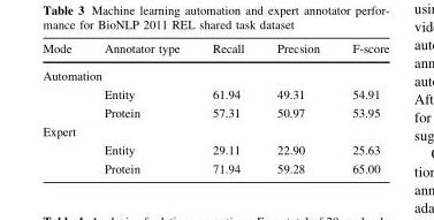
<table><thead><tr><td>Mode</td><td>Annotator type</td><td>Recall</td><td>Precsion</td><td>F-score</td></tr></thead><tbody><tr><td colspan="5">Automation</td></tr><tr><td></td><td>Entity</td><td>61.94</td><td>49.31</td><td>54.91</td></tr><tr><td></td><td>Protein</td><td>57.31</td><td>50.97</td><td>53.95</td></tr><tr><td colspan="5">Expert</td></tr><tr><td></td><td>Entity</td><td>29.11</td><td>22.90</td><td>25.63</td></tr><tr><td></td><td>Protein</td><td>71.94</td><td>59.28</td><td>65.00</td></tr></tbody></table>